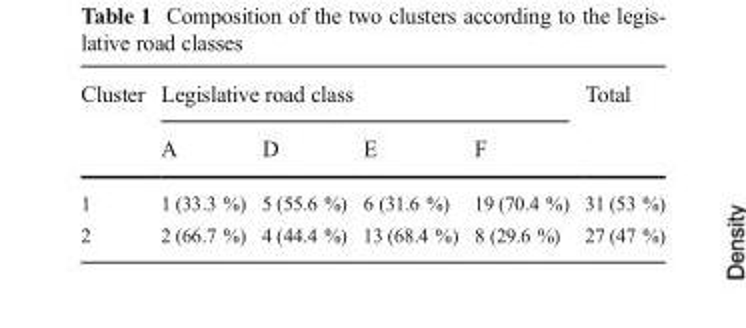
<table><thead><tr><td rowspan="2">Cluster</td><td colspan="4">Legislative road class</td><td rowspan="2">Total</td></tr><tr><td>A</td><td>D</td><td>E</td><td>F</td></tr></thead><tbody><tr><td>1</td><td>1 (33.3 %)</td><td>5 (55.6 %)</td><td>6 (31.6 %)</td><td>19 (70.4 %)</td><td>31 (53 %)</td></tr><tr><td>2</td><td>2 (66.7 %)</td><td>4 (44.4 %)</td><td>13 (68.4 %)</td><td>8 (29.6 %)</td><td>27 (47 %)</td></tr></tbody></table>